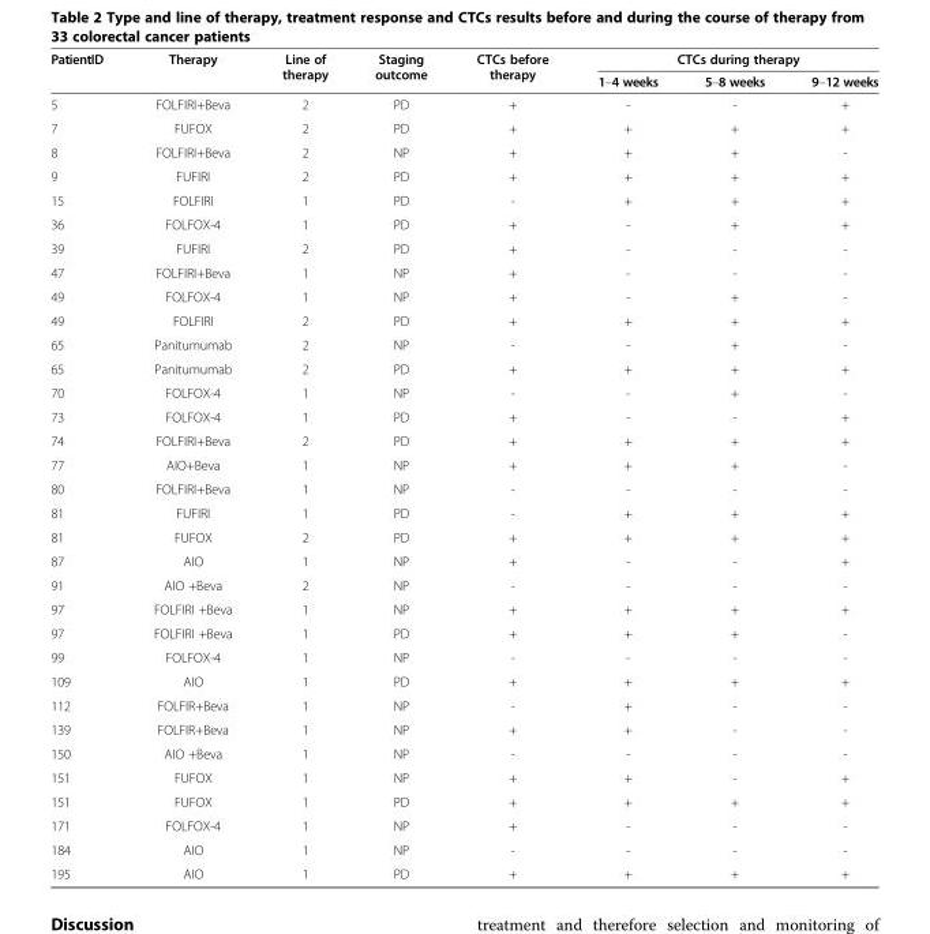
<table><thead><tr><td rowspan="2">PatientID</td><td rowspan="2">Therapy</td><td rowspan="2">Line of therapy</td><td rowspan="2">Staging outcome</td><td rowspan="2">CTCs before therapy</td><td colspan="3">CTCs during therapy</td></tr><tr><td>1–4 weeks</td><td>5–8 weeks</td><td>9–12 weeks</td></tr></thead><tbody><tr><td>5</td><td>FOLFIRI+Beva</td><td>2</td><td>PD</td><td>+</td><td>-</td><td>-</td><td>+</td></tr><tr><td>7</td><td>FUFOX</td><td>2</td><td>PD</td><td>+</td><td>+</td><td>+</td><td>+</td></tr><tr><td>8</td><td>FOLFIRI+Beva</td><td>2</td><td>NP</td><td>+</td><td>+</td><td>+</td><td>-</td></tr><tr><td>9</td><td>FUFIRI</td><td>2</td><td>PD</td><td>+</td><td>+</td><td>+</td><td>+</td></tr><tr><td>15</td><td>FOLFIRI</td><td>1</td><td>PD</td><td>-</td><td>+</td><td>+</td><td>+</td></tr><tr><td>36</td><td>FOLFOX-4</td><td>1</td><td>PD</td><td>+</td><td>-</td><td>+</td><td>+</td></tr><tr><td>39</td><td>FUFIRI</td><td>2</td><td>PD</td><td>+</td><td>-</td><td>-</td><td>-</td></tr><tr><td>47</td><td>FOLFIRI+Beva</td><td>1</td><td>NP</td><td>+</td><td>-</td><td>-</td><td>-</td></tr><tr><td>49</td><td>FOLFOX-4</td><td>1</td><td>NP</td><td>+</td><td>-</td><td>+</td><td>-</td></tr><tr><td>49</td><td>FOLFIRI</td><td>2</td><td>PD</td><td>+</td><td>+</td><td>+</td><td>+</td></tr><tr><td>65</td><td>Panitumumab</td><td>2</td><td>NP</td><td>-</td><td>-</td><td>+</td><td>-</td></tr><tr><td>65</td><td>Panitumumab</td><td>2</td><td>PD</td><td>+</td><td>+</td><td>+</td><td>+</td></tr><tr><td>70</td><td>FOLFOX-4</td><td>1</td><td>NP</td><td>-</td><td>-</td><td>+</td><td>-</td></tr><tr><td>73</td><td>FOLFOX-4</td><td>1</td><td>PD</td><td>+</td><td>-</td><td>-</td><td>+</td></tr><tr><td>74</td><td>FOLFIRI+Beva</td><td>2</td><td>PD</td><td>+</td><td>+</td><td>+</td><td>+</td></tr><tr><td>77</td><td>AIO+Beva</td><td>1</td><td>NP</td><td>+</td><td>+</td><td>+</td><td>-</td></tr><tr><td>80</td><td>FOLFIRI+Beva</td><td>1</td><td>NP</td><td>-</td><td>-</td><td>-</td><td>-</td></tr><tr><td>81</td><td>FUFIRI</td><td>1</td><td>PD</td><td>-</td><td>+</td><td>+</td><td>+</td></tr><tr><td>81</td><td>FUFOX</td><td>2</td><td>PD</td><td>+</td><td>+</td><td>+</td><td>+</td></tr><tr><td>87</td><td>AIO</td><td>1</td><td>NP</td><td>+</td><td>-</td><td>-</td><td>+</td></tr><tr><td>91</td><td>AIO +Beva</td><td>2</td><td>NP</td><td>-</td><td>-</td><td>-</td><td>-</td></tr><tr><td>97</td><td>FOLFIRI +Beva</td><td>1</td><td>NP</td><td>+</td><td>+</td><td>+</td><td>+</td></tr><tr><td>97</td><td>FOLFIRI +Beva</td><td>1</td><td>PD</td><td>+</td><td>+</td><td>+</td><td>-</td></tr><tr><td>99</td><td>FOLFOX-4</td><td>1</td><td>NP</td><td>-</td><td>-</td><td>-</td><td>-</td></tr><tr><td>109</td><td>AIO</td><td>1</td><td>PD</td><td>+</td><td>+</td><td>+</td><td>+</td></tr><tr><td>112</td><td>FOLFIR+Beva</td><td>1</td><td>NP</td><td>-</td><td>+</td><td>-</td><td>-</td></tr><tr><td>139</td><td>FOLFIR+Beva</td><td>1</td><td>NP</td><td>+</td><td>+</td><td>-</td><td>-</td></tr><tr><td>150</td><td>AIO +Beva</td><td>1</td><td>NP</td><td>-</td><td>-</td><td>-</td><td>-</td></tr><tr><td>151</td><td>FUFOX</td><td>1</td><td>NP</td><td>+</td><td>+</td><td>-</td><td>+</td></tr><tr><td>151</td><td>FUFOX</td><td>1</td><td>PD</td><td>+</td><td>+</td><td>+</td><td>+</td></tr><tr><td>171</td><td>FOLFOX-4</td><td>1</td><td>NP</td><td>+</td><td>-</td><td>-</td><td>-</td></tr><tr><td>184</td><td>AIO</td><td>1</td><td>NP</td><td>-</td><td>-</td><td>-</td><td>-</td></tr><tr><td>195</td><td>AIO</td><td>1</td><td>PD</td><td>+</td><td>+</td><td>+</td><td>+</td></tr></tbody></table>